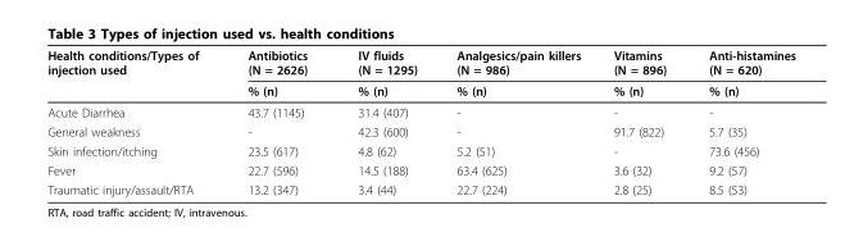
<table><thead><tr><td rowspan="2">Health conditions/Types of injection used</td><td rowspan="2">Antibiotics (N = 2626) % (n)</td><td rowspan="2">IV fluids (N = 1295) % (n)</td><td rowspan="2">Analgesics/pain killers (N = 986) % (n)</td><td rowspan="2">Vitamins (N = 896) % (n)</td><td rowspan="2">Anti-histamines (N = 620) % (n)</td></tr><tr></tr></thead><tbody><tr><td>Acute Diarrhea</td><td>43.7 (1145)</td><td>31.4 (407)</td><td>-</td><td>-</td><td>-</td></tr><tr><td>General weakness</td><td>-</td><td>42.3 (600)</td><td>-</td><td>91.7 (822)</td><td>5.7 (35)</td></tr><tr><td>Skin infection/itching</td><td>23.5 (617)</td><td>4.8 (62)</td><td>5.2 (51)</td><td>-</td><td>73.6 (456)</td></tr><tr><td>Fever</td><td>22.7 (596)</td><td>14.5 (188)</td><td>63.4 (625)</td><td>3.6 (32)</td><td>9.2 (57)</td></tr><tr><td>Traumatic injury/assault/RTA</td><td>13.2 (347)</td><td>3.4 (44)</td><td>22.7 (224)</td><td>2.8 (25)</td><td>8.5 (53)</td></tr></tbody></table>